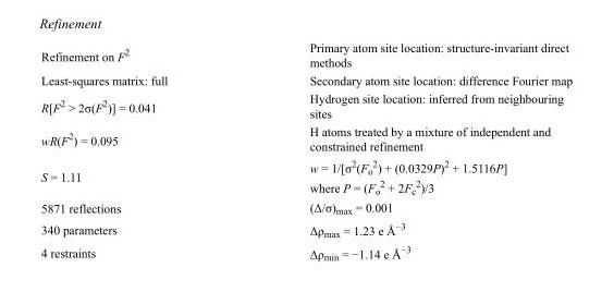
<table><tbody><tr><td>Refinement on F<sup>2</sup></td><td>Primary atom site location: structure-invariant direct methods</td></tr><tr><td>Least-squares matrix: full</td><td>Secondary atom site location: difference Fourier map</td></tr><tr><td>R[F<sup>2</sup> &gt; 2σ(F<sup>2</sup>)] = 0.041</td><td>Hydrogen site location: inferred from neighbouring sites</td></tr><tr><td>wR(F<sup>2</sup>) = 0.095</td><td>H atoms treated by a mixture of independent and constrained refinement</td></tr><tr><td>S = 1.11</td><td>w = 1/[σ<sup>2</sup>(F<sub>o</sub> <sup>2</sup>) + (0.0329P)<sup>2</sup> + 1.5116P] where P = (F<sub>o</sub> <sup>2</sup> + 2F<sub>c</sub> <sup>2</sup>)/3</td></tr><tr><td>5871 reflections</td><td>(Δ/σ)<sub>max</sub> = 0.001</td></tr><tr><td>340 parameters</td><td>Δρ<sub>max</sub> = 1.23 e Å<sup>−3</sup></td></tr><tr><td>4 restraints</td><td>Δρ<sub>min</sub> = −1.14 e Å<sup>−3</sup></td></tr></tbody></table>